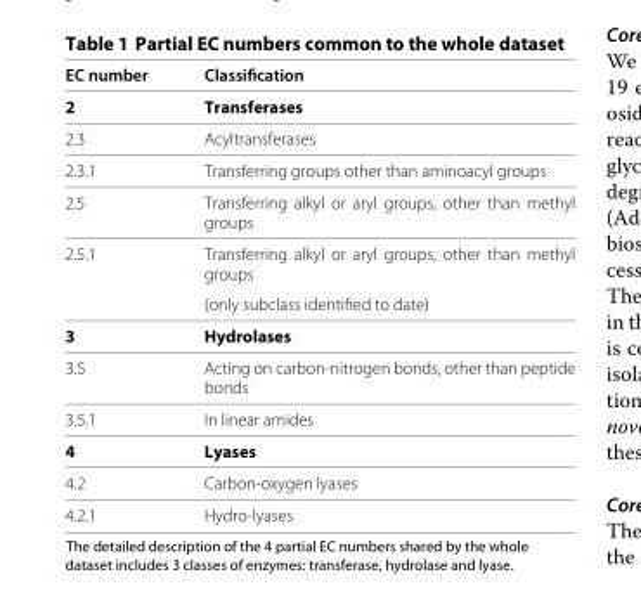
<table><thead><tr><td>EC number</td><td>Classification</td></tr></thead><tbody><tr><td>2</td><td>Transferases</td></tr><tr><td>2.3</td><td>Acyltransferases</td></tr><tr><td>2.3.1</td><td>Transferring groups other than aminoacyl groups</td></tr><tr><td>2.5</td><td>Transferring alkyl or aryl groups, other than methyl groups</td></tr><tr><td rowspan="2">2.5.1</td><td>Transferring alkyl or aryl groups, other than methyl groups</td></tr><tr><td>(only subclass identified to date)</td></tr><tr><td>3</td><td>Hydrolases</td></tr><tr><td>3.5</td><td>Acting on carbon-nitrogen bonds, other than peptide bonds</td></tr><tr><td>3.5.1</td><td>In linear amides</td></tr><tr><td>4</td><td>Lyases</td></tr><tr><td>4.2</td><td>Carbon-oxygen lyases</td></tr><tr><td>4.2.1</td><td>Hydro-lyases</td></tr></tbody></table>